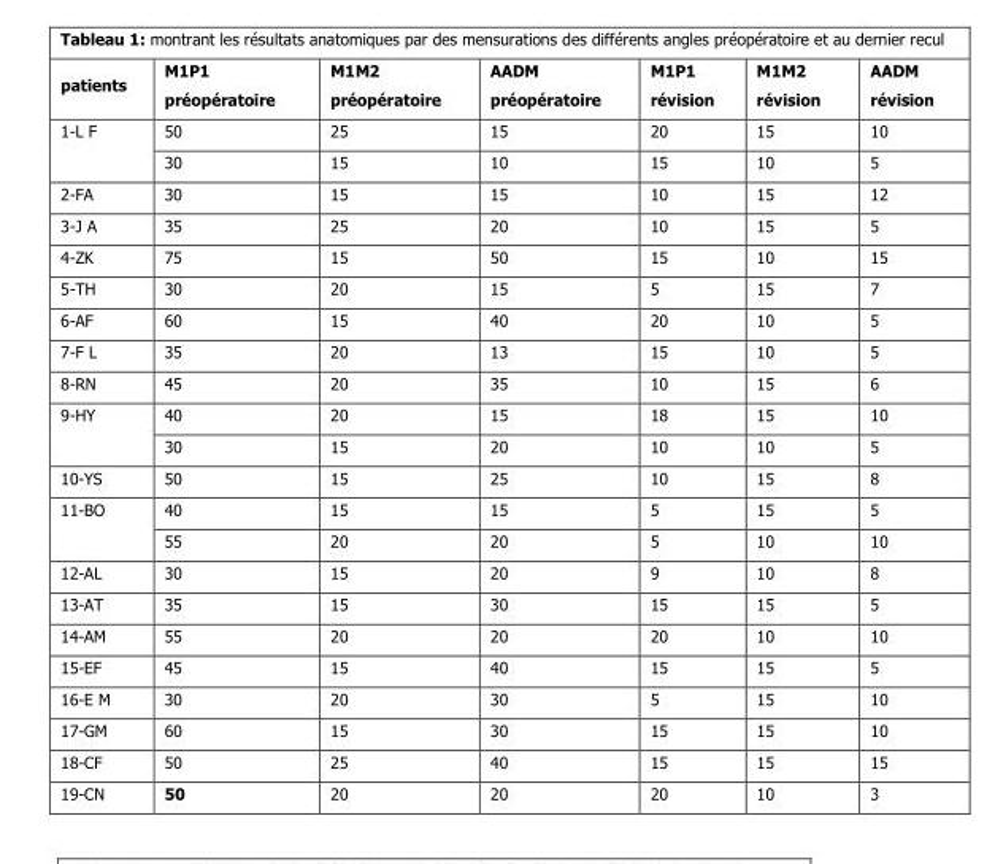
<table><thead><tr><td>patients</td><td>M1P1 préopératoire</td><td>M1M2 préopératoire</td><td>AADM préopératoire</td><td>M1P1 révision</td><td>M1M2 révision</td><td>AADM révision</td></tr></thead><tbody><tr><td rowspan="2">1-L F</td><td>50</td><td>25</td><td>15</td><td>20</td><td>15</td><td>10</td></tr><tr><td>30</td><td>15</td><td>10</td><td>15</td><td>10</td><td>5</td></tr><tr><td>2-FA</td><td>30</td><td>15</td><td>15</td><td>10</td><td>15</td><td>12</td></tr><tr><td>3-J A</td><td>35</td><td>25</td><td>20</td><td>10</td><td>15</td><td>5</td></tr><tr><td>4-ZK</td><td>75</td><td>15</td><td>50</td><td>15</td><td>10</td><td>15</td></tr><tr><td>5-TH</td><td>30</td><td>20</td><td>15</td><td>5</td><td>15</td><td>7</td></tr><tr><td>6-AF</td><td>60</td><td>15</td><td>40</td><td>20</td><td>10</td><td>5</td></tr><tr><td>7-F L</td><td>35</td><td>20</td><td>13</td><td>15</td><td>10</td><td>5</td></tr><tr><td>8-RN</td><td>45</td><td>20</td><td>35</td><td>10</td><td>15</td><td>6</td></tr><tr><td rowspan="2">9-HY</td><td>40</td><td>20</td><td>15</td><td>18</td><td>15</td><td>10</td></tr><tr><td>30</td><td>15</td><td>20</td><td>10</td><td>10</td><td>5</td></tr><tr><td>10-YS</td><td>50</td><td>15</td><td>25</td><td>10</td><td>15</td><td>8</td></tr><tr><td rowspan="2">11-BO</td><td>40</td><td>15</td><td>15</td><td>5</td><td>15</td><td>5</td></tr><tr><td>55</td><td>20</td><td>20</td><td>5</td><td>10</td><td>10</td></tr><tr><td>12-AL</td><td>30</td><td>15</td><td>20</td><td>9</td><td>10</td><td>8</td></tr><tr><td>13-AT</td><td>35</td><td>15</td><td>30</td><td>15</td><td>15</td><td>5</td></tr><tr><td>14-AM</td><td>55</td><td>20</td><td>20</td><td>20</td><td>10</td><td>10</td></tr><tr><td>15-EF</td><td>45</td><td>15</td><td>40</td><td>15</td><td>15</td><td>5</td></tr><tr><td>16-E M</td><td>30</td><td>20</td><td>30</td><td>5</td><td>15</td><td>10</td></tr><tr><td>17-GM</td><td>60</td><td>15</td><td>30</td><td>15</td><td>15</td><td>10</td></tr><tr><td>18-CF</td><td>50</td><td>25</td><td>40</td><td>15</td><td>15</td><td>15</td></tr><tr><td>19-CN</td><td>50</td><td>20</td><td>20</td><td>20</td><td>10</td><td>3</td></tr></tbody></table>